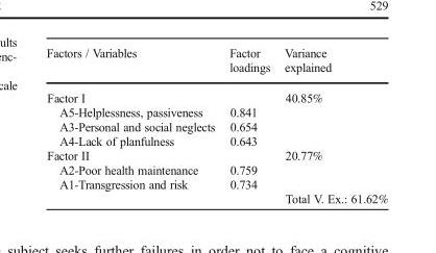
<table><thead><tr><td>Factors / Variables</td><td>Factor loadings</td><td>Variance explained</td></tr></thead><tbody><tr><td colspan="2">Factor I</td><td rowspan="4">40.85%</td></tr><tr><td>A5-Helplessness, passiveness</td><td>0.841</td></tr><tr><td>A3-Personal and social neglects</td><td>0.654</td></tr><tr><td>A4-Lack of planfulness</td><td>0.643</td></tr><tr><td colspan="2">Factor II</td><td rowspan="3">20.77%</td></tr><tr><td>A2-Poor health maintenance</td><td>0.759</td></tr><tr><td rowspan="2">A1-Transgression and risk</td><td>0.734</td></tr><tr><td></td><td>Total V. Ex.: 61.62%</td></tr></tbody></table>